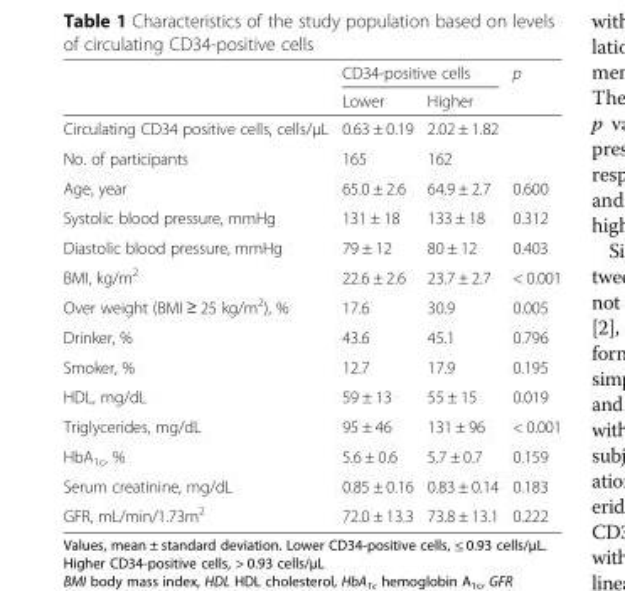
<table><thead><tr><td rowspan="2"></td><td colspan="2">CD34-positive cells</td><td rowspan="2">p</td></tr><tr><td>Lower</td><td>Higher</td></tr></thead><tbody><tr><td>Circulating CD34 positive cells, cells/μL</td><td>0.63 ± 0.19</td><td>2.02 ± 1.82</td><td></td></tr><tr><td>No. of participants</td><td>165</td><td>162</td><td></td></tr><tr><td>Age, year</td><td>65.0 ± 2.6</td><td>64.9 ± 2.7</td><td>0.600</td></tr><tr><td>Systolic blood pressure, mmHg</td><td>131 ± 18</td><td>133 ± 18</td><td>0.312</td></tr><tr><td>Diastolic blood pressure, mmHg</td><td>79 ± 12</td><td>80 ± 12</td><td>0.403</td></tr><tr><td>BMI, kg/m<sup>2</sup></td><td>22.6 ± 2.6</td><td>23.7 ± 2.7</td><td>&lt; 0.001</td></tr><tr><td>Over weight (BMI ≥ 25 kg/m<sup>2</sup>), %</td><td>17.6</td><td>30.9</td><td>0.005</td></tr><tr><td>Drinker, %</td><td>43.6</td><td>45.1</td><td>0.796</td></tr><tr><td>Smoker, %</td><td>12.7</td><td>17.9</td><td>0.195</td></tr><tr><td>HDL, mg/dL</td><td>59 ± 13</td><td>55 ± 15</td><td>0.019</td></tr><tr><td>Triglycerides, mg/dL</td><td>95 ± 46</td><td>131 ± 96</td><td>&lt; 0.001</td></tr><tr><td>HbA<sub>1c</sub>, %</td><td>5.6 ± 0.6</td><td>5.7 ± 0.7</td><td>0.159</td></tr><tr><td>Serum creatinine, mg/dL</td><td>0.85 ± 0.16</td><td>0.83 ± 0.14</td><td>0.183</td></tr><tr><td>GFR, mL/min/1.73m<sup>2</sup></td><td>72.0 ± 13.3</td><td>73.8 ± 13.1</td><td>0.222</td></tr></tbody></table>